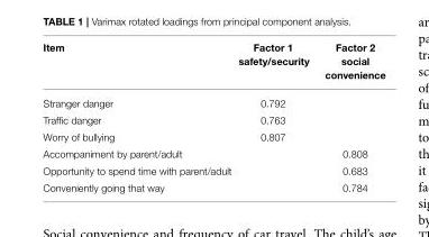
<table><thead><tr><td>Item</td><td>Factor 1 safety/security</td><td>Factor 2 social convenience</td></tr></thead><tbody><tr><td>Stranger danger</td><td>0.792</td><td></td></tr><tr><td>Traffic danger</td><td>0.763</td><td></td></tr><tr><td>Worry of bullying</td><td>0.807</td><td></td></tr><tr><td>Accompaniment by parent/adult</td><td></td><td>0.808</td></tr><tr><td>Opportunity to spend time with parent/adult</td><td></td><td>0.683</td></tr><tr><td>Conveniently going that way</td><td></td><td>0.784</td></tr></tbody></table>